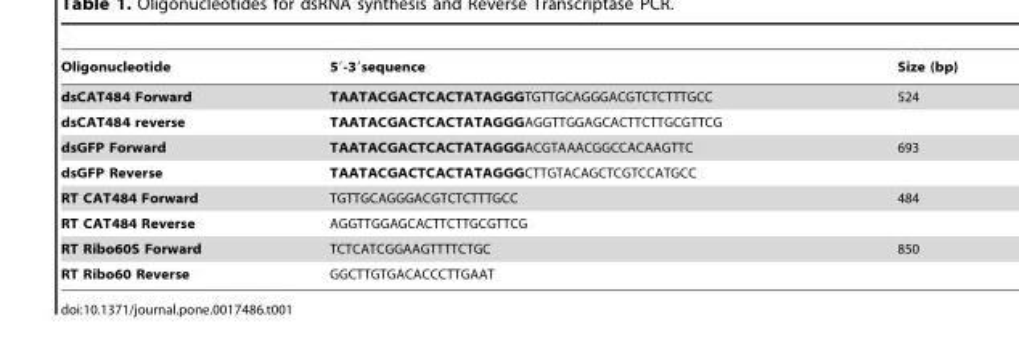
<table><thead><tr><td>Oligonucleotide</td><td>5′-3′sequence</td><td>Size (bp)</td></tr></thead><tbody><tr><td>dsCAT484 Forward</td><td>TAATACGACTCACTATAGGGTGTTGCAGGGACGTCTCTTTGCC</td><td>524</td></tr><tr><td>dsCAT484 reverse</td><td>TAATACGACTCACTATAGGGAGGTTGGAGCACTTCTTGCGTTCG</td><td></td></tr><tr><td>dsGFP Forward</td><td>TAATACGACTCACTATAGGGACGTAAACGGCCACAAGTTC</td><td>693</td></tr><tr><td>dsGFP Reverse</td><td>TAATACGACTCACTATAGGGCTTGTACAGCTCGTCCATGCC</td><td></td></tr><tr><td>RT CAT484 Forward</td><td>TGTTGCAGGGACGTCTCTTTGCC</td><td>484</td></tr><tr><td>RT CAT484 Reverse</td><td>AGGTTGGAGCACTTCTTGCGTTCG</td><td></td></tr><tr><td>RT Ribo60S Forward</td><td>TCTCATCGGAAGTTTTCTGC</td><td>850</td></tr><tr><td>RT Ribo60 Reverse</td><td>GGCTTGTGACACCCTTGAAT</td><td></td></tr></tbody></table>